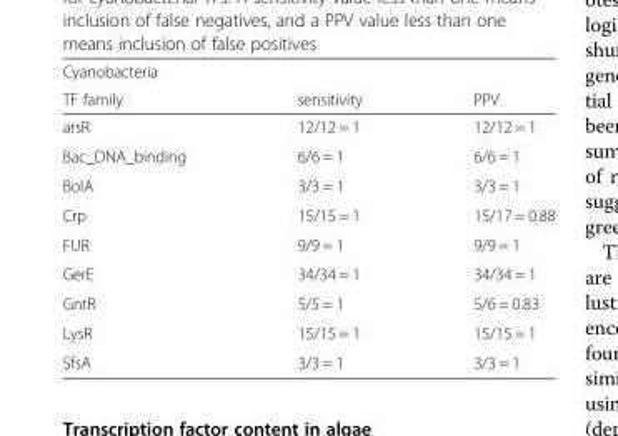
<table><thead><tr><td colspan="2">Cyanobacteria</td><td rowspan="2">PPV</td></tr><tr><td>TF family</td><td>sensitivity</td></tr></thead><tbody><tr><td>arsR</td><td>12/12 = 1</td><td>12/12 = 1</td></tr><tr><td>Bac_DNA_binding</td><td>6/6 = 1</td><td>6/6 = 1</td></tr><tr><td>BolA</td><td>3/3 = 1</td><td>3/3 = 1</td></tr><tr><td>Crp</td><td>15/15 = 1</td><td>15/17 = 0.88</td></tr><tr><td>FUR</td><td>9/9 = 1</td><td>9/9 = 1</td></tr><tr><td>GerE</td><td>34/34 = 1</td><td>34/34 = 1</td></tr><tr><td>GntR</td><td>5/5 = 1</td><td>5/6 = 0.83</td></tr><tr><td>LysR</td><td>15/15 = 1</td><td>15/15 = 1</td></tr><tr><td>SfsA</td><td>3/3 = 1</td><td>3/3 = 1</td></tr></tbody></table>